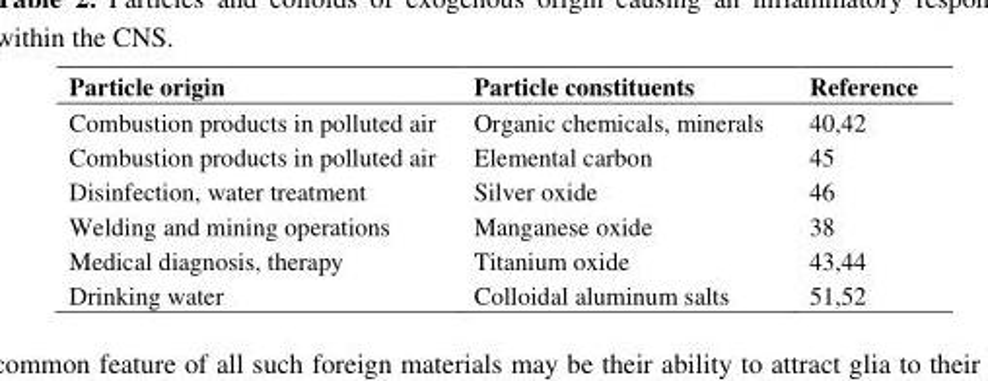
<table><thead><tr><td>Particle origin</td><td>Particle constituents</td><td>Reference</td></tr></thead><tbody><tr><td>Combustion products in polluted air</td><td>Organic chemicals, minerals</td><td>40,42</td></tr><tr><td>Combustion products in polluted air</td><td>Elemental carbon</td><td>45</td></tr><tr><td>Disinfection, water treatment</td><td>Silver oxide</td><td>46</td></tr><tr><td>Welding and mining operations</td><td>Manganese oxide</td><td>38</td></tr><tr><td>Medical diagnosis, therapy</td><td>Titanium oxide</td><td>43,44</td></tr><tr><td>Drinking water</td><td>Colloidal aluminum salts</td><td>51,52</td></tr></tbody></table>